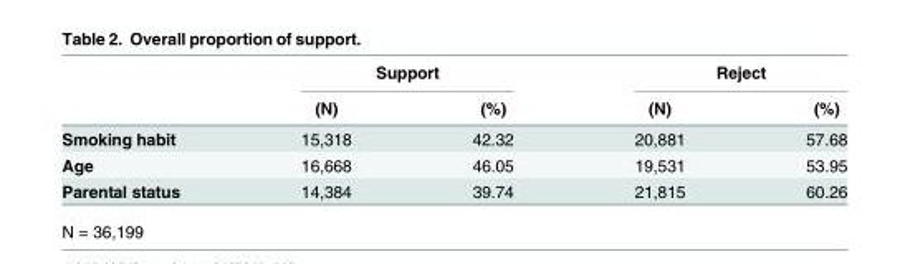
<table><thead><tr><td rowspan="2"></td><td colspan="2">Support</td><td colspan="2">Reject</td></tr><tr><td>(N)</td><td>(%)</td><td>(N)</td><td>(%)</td></tr></thead><tbody><tr><td>Smoking habit</td><td>15,318</td><td>42.32</td><td>20,881</td><td>57.68</td></tr><tr><td>Age</td><td>16,668</td><td>46.05</td><td>19,531</td><td>53.95</td></tr><tr><td>Parental status</td><td>14,384</td><td>39.74</td><td>21,815</td><td>60.26</td></tr></tbody></table>